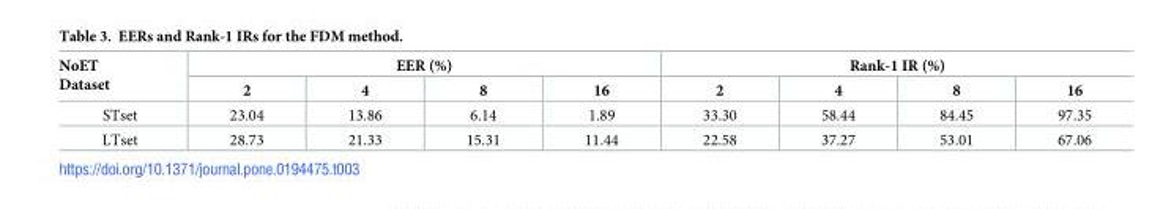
<table><thead><tr><td rowspan="2">NoET Dataset</td><td colspan="4">EER (%)</td><td colspan="4">Rank-1 IR (%)</td></tr><tr><td>2</td><td>4</td><td>8</td><td>16</td><td>2</td><td>4</td><td>8</td><td>16</td></tr></thead><tbody><tr><td>STset</td><td>23.04</td><td>13.86</td><td>6.14</td><td>1.89</td><td>33.30</td><td>58.44</td><td>84.45</td><td>97.35</td></tr><tr><td>LTset</td><td>28.73</td><td>21.33</td><td>15.31</td><td>11.44</td><td>22.58</td><td>37.27</td><td>53.01</td><td>67.06</td></tr></tbody></table>